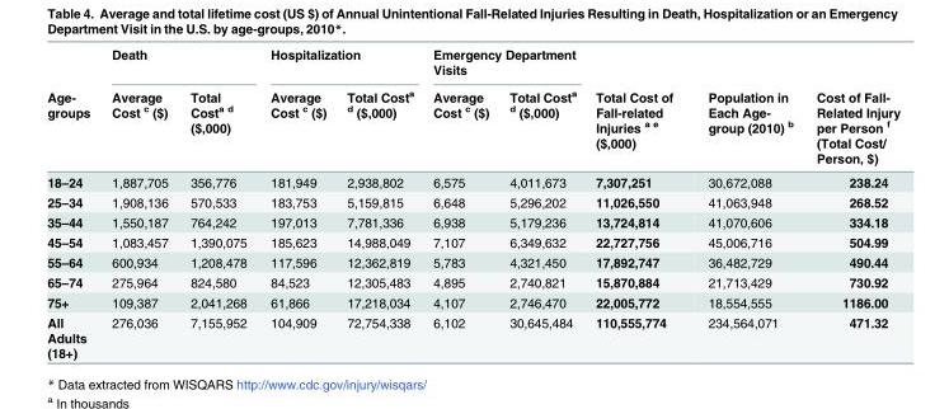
<table><thead><tr><td rowspan="2">Age- groups</td><td colspan="2">Death</td><td colspan="2">Hospitalization</td><td colspan="2">Emergency Department Visits</td><td rowspan="2">Total Cost of Fall-related Injuries <sup>a e</sup> ($,000)</td><td rowspan="2">Population in Each Age- group (2010) <sup>b</sup></td><td rowspan="2">Cost of Fall- Related Injury per Person <sup>f</sup> (Total Cost/ Person, $)</td></tr><tr><td>Average Cost <sup>c</sup> ($)</td><td>Total Cost<sup>a d</sup> ($,000)</td><td>Average Cost <sup>c</sup> ($)</td><td>Total Cost<sup>a d</sup> ($,000)</td><td>Average Cost <sup>c</sup> ($)</td><td>Total Cost<sup>a d</sup> ($,000)</td></tr></thead><tbody><tr><td>18–24</td><td>1,887,705</td><td>356,776</td><td>181,949</td><td>2,938,802</td><td>6,575</td><td>4,011,673</td><td>7,307,251</td><td>30,672,088</td><td>238.24</td></tr><tr><td>25–34</td><td>1,908,136</td><td>570,533</td><td>183,753</td><td>5,159,815</td><td>6,648</td><td>5,296,202</td><td>11,026,550</td><td>41,063,948</td><td>268.52</td></tr><tr><td>35–44</td><td>1,550,187</td><td>764,242</td><td>197,013</td><td>7,781,336</td><td>6,938</td><td>5,179,236</td><td>13,724,814</td><td>41,070,606</td><td>334.18</td></tr><tr><td>45–54</td><td>1,083,457</td><td>1,390,075</td><td>185,623</td><td>14,988,049</td><td>7,107</td><td>6,349,632</td><td>22,727,756</td><td>45,006,716</td><td>504.99</td></tr><tr><td>55–64</td><td>600,934</td><td>1,208,478</td><td>117,596</td><td>12,362,819</td><td>5,783</td><td>4,321,450</td><td>17,892,747</td><td>36,482,729</td><td>490.44</td></tr><tr><td>65–74</td><td>275,964</td><td>824,580</td><td>84,523</td><td>12,305,483</td><td>4,895</td><td>2,740,821</td><td>15,870,884</td><td>21,713,429</td><td>730.92</td></tr><tr><td>75+</td><td>109,387</td><td>2,041,268</td><td>61,866</td><td>17,218,034</td><td>4,107</td><td>2,746,470</td><td>22,005,772</td><td>18,554,555</td><td>1186.00</td></tr><tr><td>All Adults (18+)</td><td>276,036</td><td>7,155,952</td><td>104,909</td><td>72,754,338</td><td>6,102</td><td>30,645,484</td><td>110,555,774</td><td>234,564,071</td><td>471.32</td></tr></tbody></table>